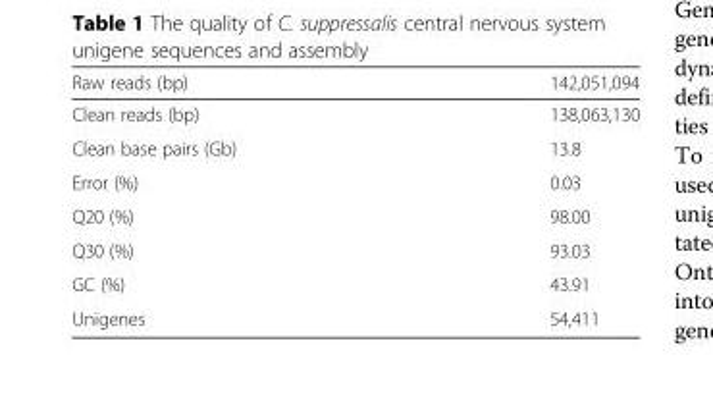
<table><thead><tr><td>Raw reads (bp)</td><td>142,051,094</td></tr></thead><tbody><tr><td>Clean reads (bp)</td><td>138,063,130</td></tr><tr><td>Clean base pairs (Gb)</td><td>13.8</td></tr><tr><td>Error (%)</td><td>0.03</td></tr><tr><td>Q20 (%)</td><td>98.00</td></tr><tr><td>Q30 (%)</td><td>93.03</td></tr><tr><td>GC (%)</td><td>43.91</td></tr><tr><td>Unigenes</td><td>54,411</td></tr></tbody></table>